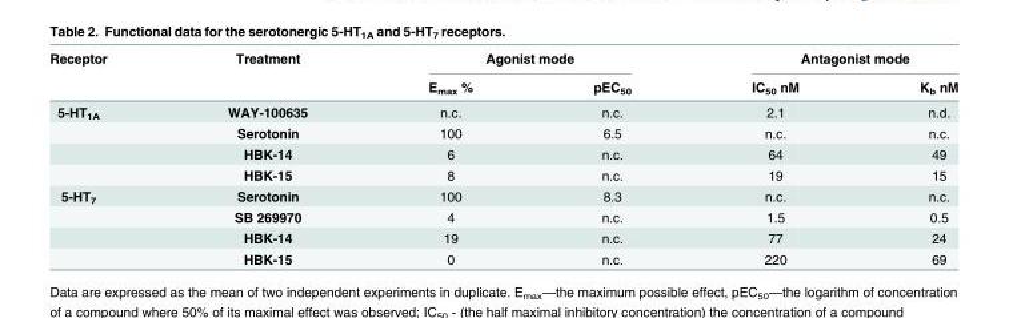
<table><thead><tr><td rowspan="2">Receptor</td><td rowspan="2">Treatment</td><td colspan="2">Agonist mode</td><td colspan="2">Antagonist mode</td></tr><tr><td>E<sub>max</sub> %</td><td>pEC<sub>50</sub></td><td>IC<sub>50</sub> nM</td><td>K<sub>b</sub> nM</td></tr></thead><tbody><tr><td rowspan="4">5-HT<sub>1A</sub></td><td>WAY-100635</td><td>n.c.</td><td>n.c.</td><td>2.1</td><td>n.d.</td></tr><tr><td>Serotonin</td><td>100</td><td>6.5</td><td>n.c.</td><td>n.c.</td></tr><tr><td>HBK-14</td><td>6</td><td>n.c.</td><td>64</td><td>49</td></tr><tr><td>HBK-15</td><td>8</td><td>n.c.</td><td>19</td><td>15</td></tr><tr><td rowspan="4">5-HT<sub>7</sub></td><td>Serotonin</td><td>100</td><td>8.3</td><td>n.c.</td><td>n.c.</td></tr><tr><td>SB 269970</td><td>4</td><td>n.c.</td><td>1.5</td><td>0.5</td></tr><tr><td>HBK-14</td><td>19</td><td>n.c.</td><td>77</td><td>24</td></tr><tr><td>HBK-15</td><td>0</td><td>n.c.</td><td>220</td><td>69</td></tr></tbody></table>